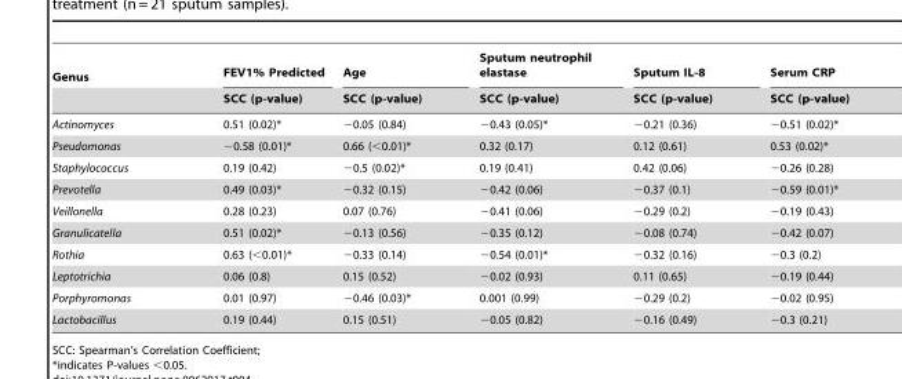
<table><thead><tr><td rowspan="2">Genus</td><td rowspan="2">FEV1% Predicted SCC (p-value)</td><td rowspan="2">Age SCC (p-value)</td><td rowspan="2">Sputum neutrophil elastase SCC (p-value)</td><td rowspan="2">Sputum IL-8 SCC (p-value)</td><td rowspan="2">Serum CRP SCC (p-value)</td></tr><tr></tr></thead><tbody><tr><td>Actinomyces</td><td>0.51 (0.02)*</td><td>−0.05 (0.84)</td><td>−0.43 (0.05)*</td><td>−0.21 (0.36)</td><td>−0.51 (0.02)*</td></tr><tr><td>Pseudomonas</td><td>−0.58 (0.01)*</td><td>0.66 (&lt;0.01)*</td><td>0.32 (0.17)</td><td>0.12 (0.61)</td><td>0.53 (0.02)*</td></tr><tr><td>Staphylococcus</td><td>0.19 (0.42)</td><td>−0.5 (0.02)*</td><td>0.19 (0.41)</td><td>0.42 (0.06)</td><td>−0.26 (0.28)</td></tr><tr><td>Prevotella</td><td>0.49 (0.03)*</td><td>−0.32 (0.15)</td><td>−0.42 (0.06)</td><td>−0.37 (0.1)</td><td>−0.59 (0.01)*</td></tr><tr><td>Veillonella</td><td>0.28 (0.23)</td><td>0.07 (0.76)</td><td>−0.41 (0.06)</td><td>−0.29 (0.2)</td><td>−0.19 (0.43)</td></tr><tr><td>Granulicatella</td><td>0.51 (0.02)*</td><td>−0.13 (0.56)</td><td>−0.35 (0.12)</td><td>−0.08 (0.74)</td><td>−0.42 (0.07)</td></tr><tr><td>Rothia</td><td>0.63 (&lt;0.01)*</td><td>−0.33 (0.14)</td><td>−0.54 (0.01)*</td><td>−0.32 (0.16)</td><td>−0.3 (0.2)</td></tr><tr><td>Leptotrichia</td><td>0.06 (0.8)</td><td>0.15 (0.52)</td><td>−0.02 (0.93)</td><td>0.11 (0.65)</td><td>−0.19 (0.44)</td></tr><tr><td>Porphyromonas</td><td>0.01 (0.97)</td><td>−0.46 (0.03)*</td><td>0.001 (0.99)</td><td>−0.29 (0.2)</td><td>−0.02 (0.95)</td></tr><tr><td>Lactobacillus</td><td>0.19 (0.44)</td><td>0.15 (0.51)</td><td>−0.05 (0.82)</td><td>−0.16 (0.49)</td><td>−0.3 (0.21)</td></tr></tbody></table>